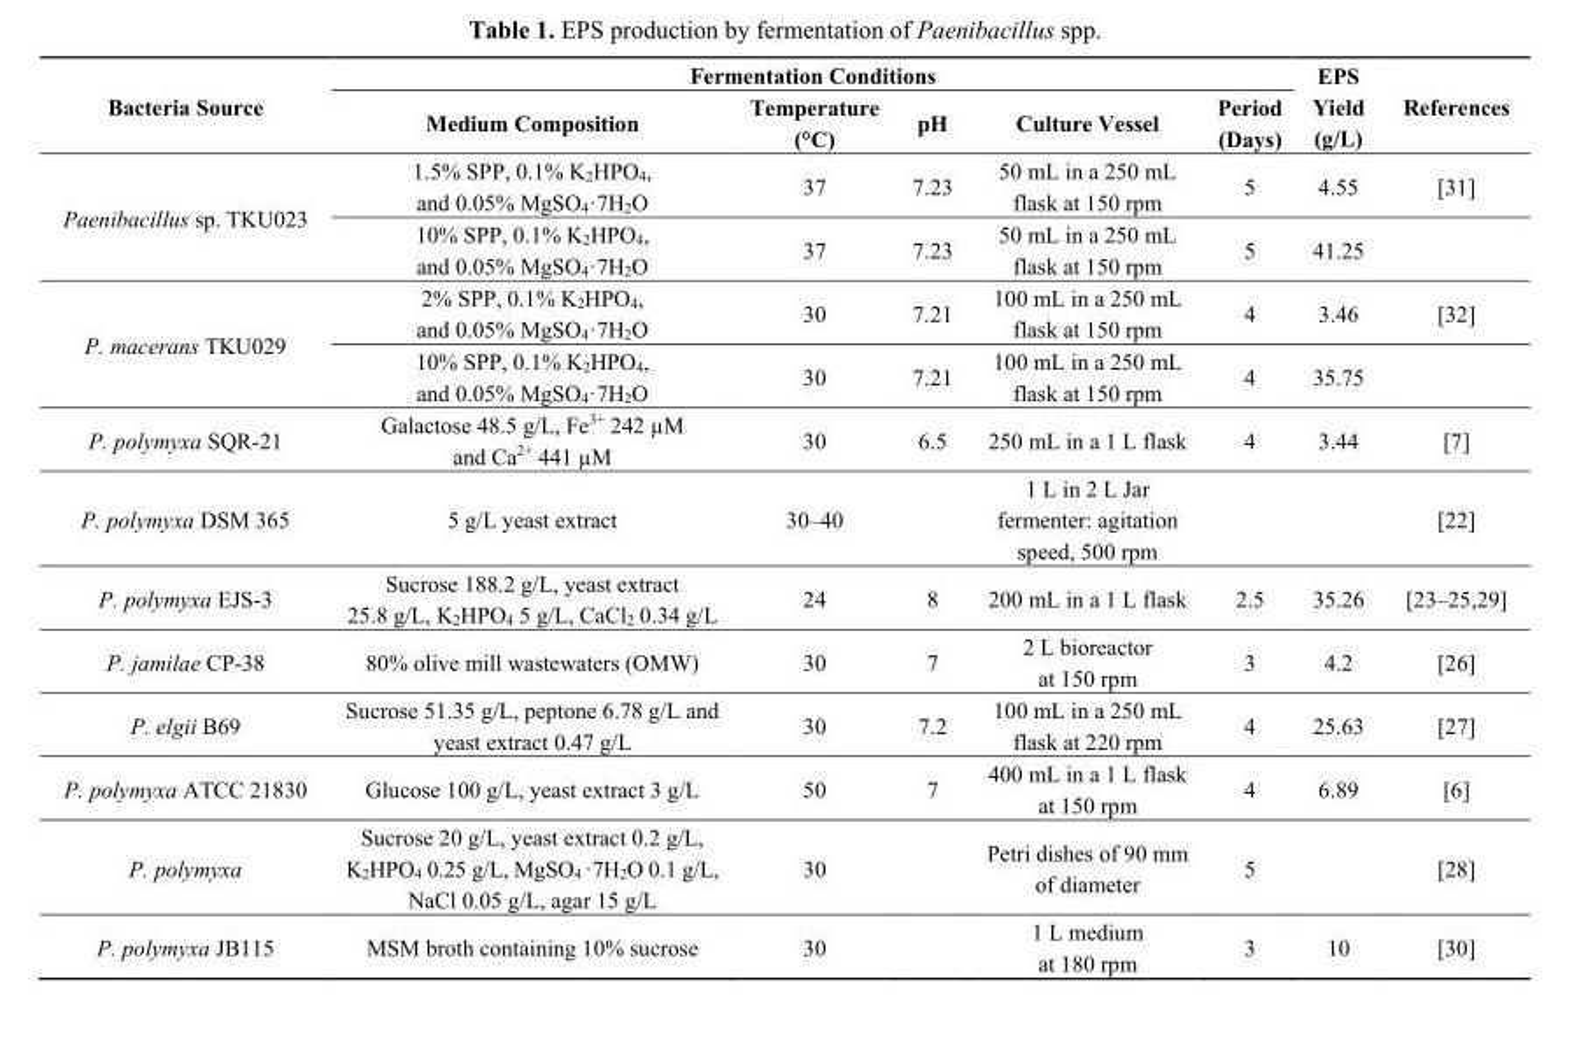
<table><thead><tr><td rowspan="2">Bacteria Source</td><td colspan="5">Fermentation Conditions</td><td rowspan="2">EPS Yield (g/L)</td><td rowspan="2">References</td></tr><tr><td>Medium Composition</td><td>Temperature (°C)</td><td>pH</td><td>Culture Vessel</td><td>Period (Days)</td></tr></thead><tbody><tr><td rowspan="2">Paenibacillus sp. TKU023</td><td>1.5% SPP, 0.1% K<sub>2</sub>HPO<sub>4</sub>, and 0.05% MgSO<sub>4</sub>·7H<sub>2</sub>O</td><td>37</td><td>7.23</td><td>50 mL in a 250 mL flask at 150 rpm</td><td>5</td><td>4.55</td><td>[31]</td></tr><tr><td>10% SPP, 0.1% K<sub>2</sub>HPO<sub>4</sub>, and 0.05% MgSO<sub>4</sub>·7H<sub>2</sub>O</td><td>37</td><td>7.23</td><td>50 mL in a 250 mL flask at 150 rpm</td><td>5</td><td>41.25</td><td></td></tr><tr><td rowspan="2">P. macerans TKU029</td><td>2% SPP, 0.1% K<sub>2</sub>HPO<sub>4</sub>, and 0.05% MgSO<sub>4</sub>·7H<sub>2</sub>O</td><td>30</td><td>7.21</td><td>100 mL in a 250 mL flask at 150 rpm</td><td>4</td><td>3.46</td><td>[32]</td></tr><tr><td>10% SPP, 0.1% K<sub>2</sub>HPO<sub>4</sub>, and 0.05% MgSO<sub>4</sub>·7H<sub>2</sub>O</td><td>30</td><td>7.21</td><td>100 mL in a 250 mL flask at 150 rpm</td><td>4</td><td>35.75</td><td></td></tr><tr><td>P. polymyxa SQR-21</td><td>Galactose 48.5 g/L, Fe<sup>3+</sup> 242 µM and Ca<sup>2+</sup> 441 µM</td><td>30</td><td>6.5</td><td>250 mL in a 1 L flask</td><td>4</td><td>3.44</td><td>[7]</td></tr><tr><td>P. polymyxa DSM 365</td><td>5 g/L yeast extract</td><td>30–40</td><td></td><td>1 L in 2 L Jar fermenter: agitation speed, 500 rpm</td><td></td><td></td><td>[22]</td></tr><tr><td>P. polymyxa EJS-3</td><td>Sucrose 188.2 g/L, yeast extract 25.8 g/L, K<sub>2</sub>HPO<sub>4</sub> 5 g/L, CaCl<sub>2</sub> 0.34 g/L</td><td>24</td><td>8</td><td>200 mL in a 1 L flask</td><td>2.5</td><td>35.26</td><td>[23–25,29]</td></tr><tr><td>P. jamilae CP-38</td><td>80% olive mill wastewaters (OMW)</td><td>30</td><td>7</td><td>2 L bioreactor at 150 rpm</td><td>3</td><td>4.2</td><td>[26]</td></tr><tr><td>P. elgii B69</td><td>Sucrose 51.35 g/L, peptone 6.78 g/L and yeast extract 0.47 g/L</td><td>30</td><td>7.2</td><td>100 mL in a 250 mL flask at 220 rpm</td><td>4</td><td>25.63</td><td>[27]</td></tr><tr><td>P. polymyxa ATCC 21830</td><td>Glucose 100 g/L, yeast extract 3 g/L</td><td>50</td><td>7</td><td>400 mL in a 1 L flask at 150 rpm</td><td>4</td><td>6.89</td><td>[6]</td></tr><tr><td>P. polymyxa</td><td>Sucrose 20 g/L, yeast extract 0.2 g/L, K<sub>2</sub>HPO<sub>4</sub> 0.25 g/L, MgSO<sub>4</sub> ·7H<sub>2</sub>O 0.1 g/L, NaCl 0.05 g/L, agar 15 g/L</td><td>30</td><td></td><td>Petri dishes of 90 mm of diameter</td><td>5</td><td></td><td>[28]</td></tr><tr><td>P. polymyxa JB115</td><td>MSM broth containing 10% sucrose</td><td>30</td><td></td><td>1 L medium at 180 rpm</td><td>3</td><td>10</td><td>[30]</td></tr></tbody></table>